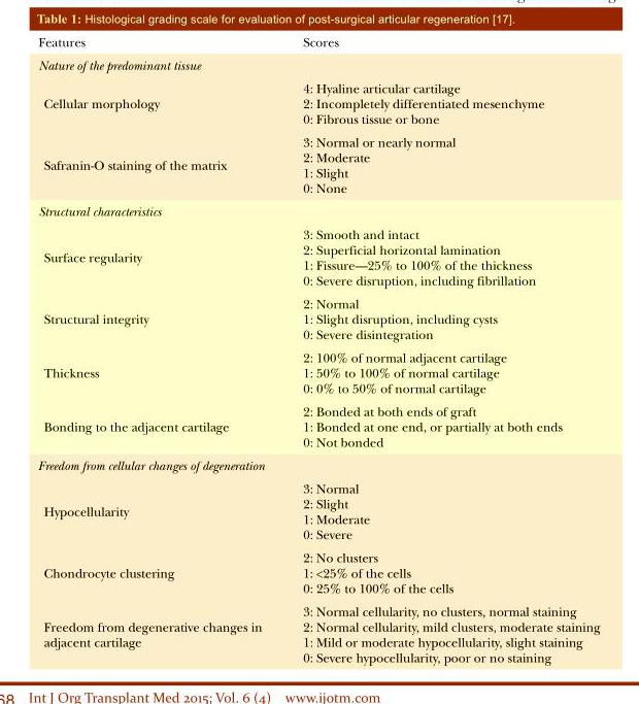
<table><thead><tr><td>Features</td><td>Scores</td></tr></thead><tbody><tr><td colspan="2">Nature of the predominant tissue</td></tr><tr><td>Cellular morphology</td><td>4: Hyaline articular cartilage 2: Incompletely differentiated mesenchyme 0: Fibrous tissue or bone</td></tr><tr><td>Safranin-O staining of the matrix</td><td>3: Normal or nearly normal 2: Moderate 1: Slight 0: None</td></tr><tr><td colspan="2">Structural characteristics</td></tr><tr><td>Surface regularity</td><td>3: Smooth and intact 2: Superficial horizontal lamination 1: Fissure—25% to 100% of the thickness 0: Severe disruption, including fibrillation</td></tr><tr><td>Structural integrity</td><td>2: Normal 1: Slight disruption, including cysts 0: Severe disintegration</td></tr><tr><td>Thickness</td><td>2: 100% of normal adjacent cartilage 1: 50% to 100% of normal cartilage 0: 0% to 50% of normal cartilage</td></tr><tr><td>Bonding to the adjacent cartilage</td><td>2: Bonded at both ends of graft 1: Bonded at one end, or partially at both ends 0: Not bonded</td></tr><tr><td colspan="2">Freedom from cellular changes of degeneration</td></tr><tr><td>Hypocellularity</td><td>3: Normal 2: Slight 1: Moderate 0: Severe</td></tr><tr><td>Chondrocyte clustering</td><td>2: No clusters 1: &lt;25% of the cells 0: 25% to 100% of the cells</td></tr><tr><td>Freedom from degenerative changes in adjacent cartilage</td><td>3: Normal cellularity, no clusters, normal staining 2: Normal cellularity, mild clusters, moderate staining 1: Mild or moderate hypocellularity, slight staining 0: Severe hypocellularity, poor or no staining</td></tr></tbody></table>